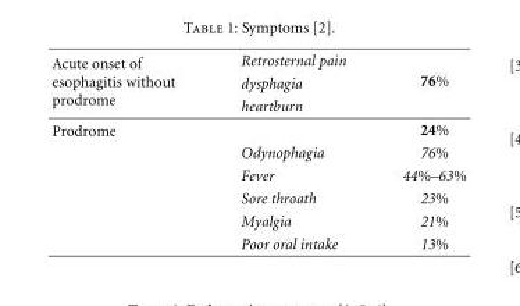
<table><thead><tr><td rowspan="3">Acute onset of esophagitis without prodrome</td><td rowspan="3">Retrosternal pain dysphagia heartburn</td><td rowspan="3">76%</td></tr><tr></tr><tr></tr></thead><tbody><tr><td rowspan="6">Prodrome</td><td></td><td>24%</td></tr><tr><td>Odynophagia</td><td>76%</td></tr><tr><td>Fever</td><td>44%–63%</td></tr><tr><td>Sore throath</td><td>23%</td></tr><tr><td>Myalgia</td><td>21%</td></tr><tr><td>Poor oral intake</td><td>13%</td></tr></tbody></table>